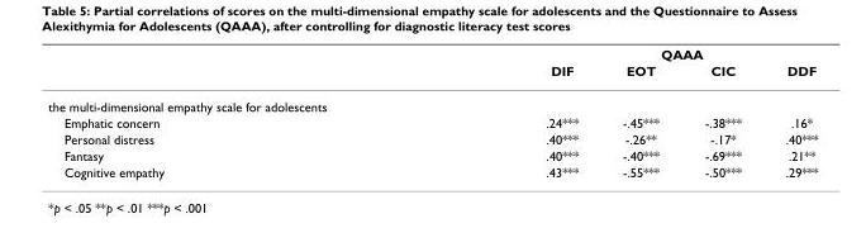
<table><thead><tr><td rowspan="2"></td><td colspan="4">QAAA</td></tr><tr><td>DIF</td><td>EOT</td><td>CIC</td><td>DDF</td></tr></thead><tbody><tr><td colspan="5">the multi-dimensional empathy scale for adolescents</td></tr><tr><td>Emphatic concern</td><td>.24***</td><td>-.45***</td><td>-.38***</td><td>.16*</td></tr><tr><td>Personal distress</td><td>.40***</td><td>-.26**</td><td>-.17*</td><td>.40***</td></tr><tr><td>Fantasy</td><td>.40***</td><td>-.40***</td><td>-.69***</td><td>.21**</td></tr><tr><td>Cognitive empathy</td><td>.43***</td><td>-.55***</td><td>-.50***</td><td>.29***</td></tr></tbody></table>